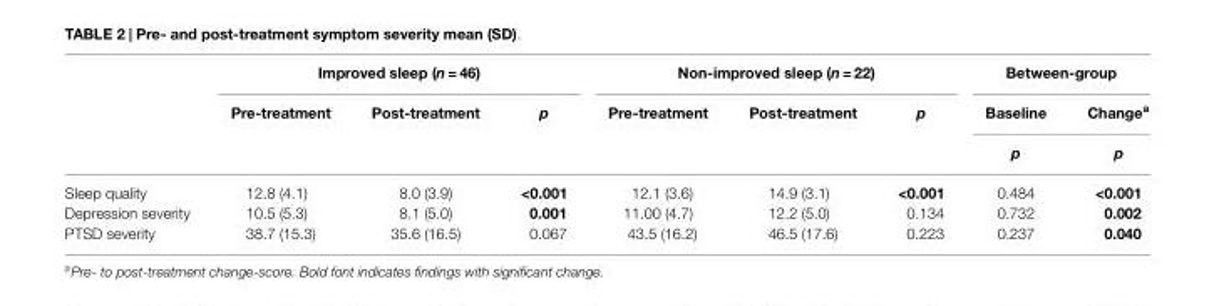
<table><thead><tr><td rowspan="3"></td><td colspan="3">Improved sleep (n = 46)</td><td colspan="3">Non-improved sleep (n = 22)</td><td colspan="2">Between-group</td></tr><tr><td rowspan="2">Pre-treatment</td><td rowspan="2">Post-treatment</td><td rowspan="2">p</td><td rowspan="2">Pre-treatment</td><td rowspan="2">Post-treatment</td><td rowspan="2">p</td><td rowspan="2">Baseline p</td><td rowspan="2">Change<sup>a</sup> p</td></tr><tr></tr></thead><tbody><tr><td>Sleep quality</td><td>12.8 (4.1)</td><td>8.0 (3.9)</td><td>&lt;0.001</td><td>12.1 (3.6)</td><td>14.9 (3.1)</td><td>&lt;0.001</td><td>0.484</td><td>&lt;0.001</td></tr><tr><td>Depression severity</td><td>10.5 (5.3)</td><td>8.1 (5.0)</td><td>0.001</td><td>11.00 (4.7)</td><td>12.2 (5.0)</td><td>0.134</td><td>0.732</td><td>0.002</td></tr><tr><td>PTSD severity</td><td>38.7 (15.3)</td><td>35.6 (16.5)</td><td>0.067</td><td>43.5 (16.2)</td><td>46.5 (17.6)</td><td>0.223</td><td>0.237</td><td>0.040</td></tr></tbody></table>